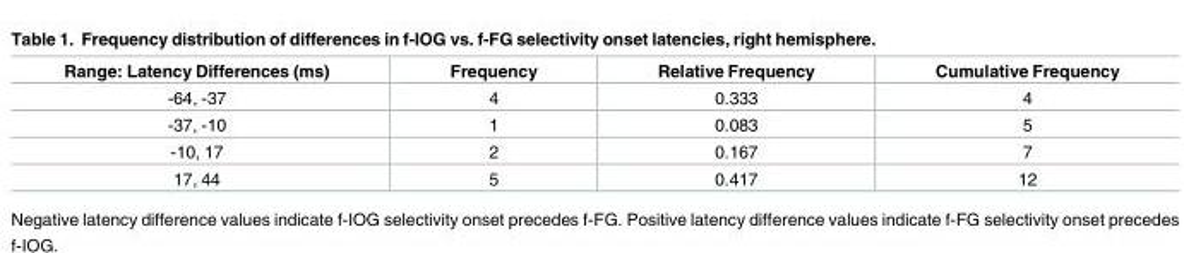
<table><thead><tr><td>Range: Latency Differences (ms)</td><td>Frequency</td><td>Relative Frequency</td><td>Cumulative Frequency</td></tr></thead><tbody><tr><td>-64, -37</td><td>4</td><td>0.333</td><td>4</td></tr><tr><td>-37, -10</td><td>1</td><td>0.083</td><td>5</td></tr><tr><td>-10, 17</td><td>2</td><td>0.167</td><td>7</td></tr><tr><td>17, 44</td><td>5</td><td>0.417</td><td>12</td></tr></tbody></table>